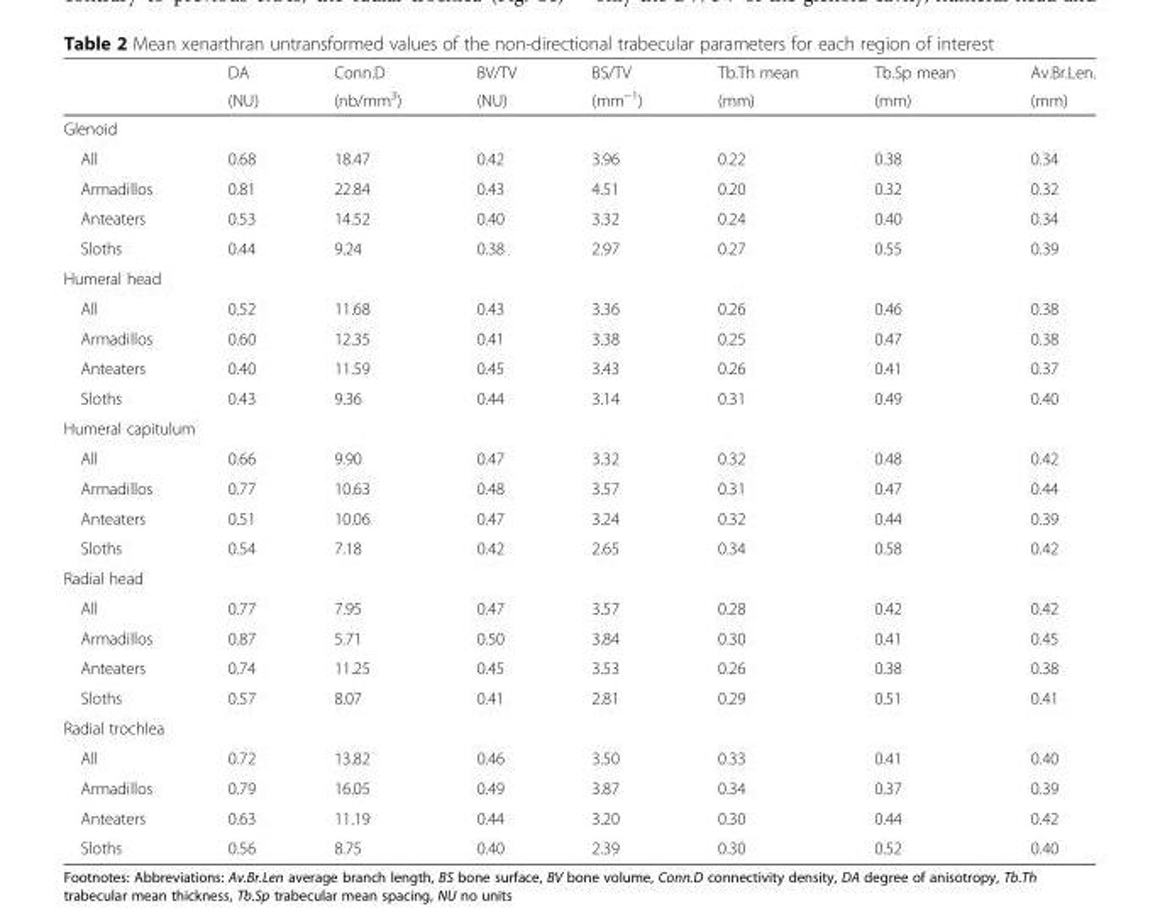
<table><thead><tr><td rowspan="2"></td><td rowspan="2">DA (NU)</td><td rowspan="2">Conn.D (nb/mm<sup>3</sup>)</td><td rowspan="2">BV/TV (NU)</td><td rowspan="2">BS/TV (mm<sup>−1</sup>)</td><td rowspan="2">Tb.Th mean (mm)</td><td rowspan="2">Tb.Sp mean (mm)</td><td rowspan="2">Av.Br.Len. (mm)</td></tr><tr></tr></thead><tbody><tr><td colspan="8">Glenoid</td></tr><tr><td>All</td><td>0.68</td><td>18.47</td><td>0.42</td><td>3.96</td><td>0.22</td><td>0.38</td><td>0.34</td></tr><tr><td>Armadillos</td><td>0.81</td><td>22.84</td><td>0.43</td><td>4.51</td><td>0.20</td><td>0.32</td><td>0.32</td></tr><tr><td>Anteaters</td><td>0.53</td><td>14.52</td><td>0.40</td><td>3.32</td><td>0.24</td><td>0.40</td><td>0.34</td></tr><tr><td>Sloths</td><td>0.44</td><td>9.24</td><td>0.38</td><td>2.97</td><td>0.27</td><td>0.55</td><td>0.39</td></tr><tr><td colspan="8">Humeral head</td></tr><tr><td>All</td><td>0.52</td><td>11.68</td><td>0.43</td><td>3.36</td><td>0.26</td><td>0.46</td><td>0.38</td></tr><tr><td>Armadillos</td><td>0.60</td><td>12.35</td><td>0.41</td><td>3.38</td><td>0.25</td><td>0.47</td><td>0.38</td></tr><tr><td>Anteaters</td><td>0.40</td><td>11.59</td><td>0.45</td><td>3.43</td><td>0.26</td><td>0.41</td><td>0.37</td></tr><tr><td>Sloths</td><td>0.43</td><td>9.36</td><td>0.44</td><td>3.14</td><td>0.31</td><td>0.49</td><td>0.40</td></tr><tr><td colspan="8">Humeral capitulum</td></tr><tr><td>All</td><td>0.66</td><td>9.90</td><td>0.47</td><td>3.32</td><td>0.32</td><td>0.48</td><td>0.42</td></tr><tr><td>Armadillos</td><td>0.77</td><td>10.63</td><td>0.48</td><td>3.57</td><td>0.31</td><td>0.47</td><td>0.44</td></tr><tr><td>Anteaters</td><td>0.51</td><td>10.06</td><td>0.47</td><td>3.24</td><td>0.32</td><td>0.44</td><td>0.39</td></tr><tr><td>Sloths</td><td>0.54</td><td>7.18</td><td>0.42</td><td>2.65</td><td>0.34</td><td>0.58</td><td>0.42</td></tr><tr><td colspan="8">Radial head</td></tr><tr><td>All</td><td>0.77</td><td>7.95</td><td>0.47</td><td>3.57</td><td>0.28</td><td>0.42</td><td>0.42</td></tr><tr><td>Armadillos</td><td>0.87</td><td>5.71</td><td>0.50</td><td>3.84</td><td>0.30</td><td>0.41</td><td>0.45</td></tr><tr><td>Anteaters</td><td>0.74</td><td>11.25</td><td>0.45</td><td>3.53</td><td>0.26</td><td>0.38</td><td>0.38</td></tr><tr><td>Sloths</td><td>0.57</td><td>8.07</td><td>0.41</td><td>2.81</td><td>0.29</td><td>0.51</td><td>0.41</td></tr><tr><td colspan="8">Radial trochlea</td></tr><tr><td>All</td><td>0.72</td><td>13.82</td><td>0.46</td><td>3.50</td><td>0.33</td><td>0.41</td><td>0.40</td></tr><tr><td>Armadillos</td><td>0.79</td><td>16.05</td><td>0.49</td><td>3.87</td><td>0.34</td><td>0.37</td><td>0.39</td></tr><tr><td>Anteaters</td><td>0.63</td><td>11.19</td><td>0.44</td><td>3.20</td><td>0.30</td><td>0.44</td><td>0.42</td></tr><tr><td>Sloths</td><td>0.56</td><td>8.75</td><td>0.40</td><td>2.39</td><td>0.30</td><td>0.52</td><td>0.40</td></tr></tbody></table>